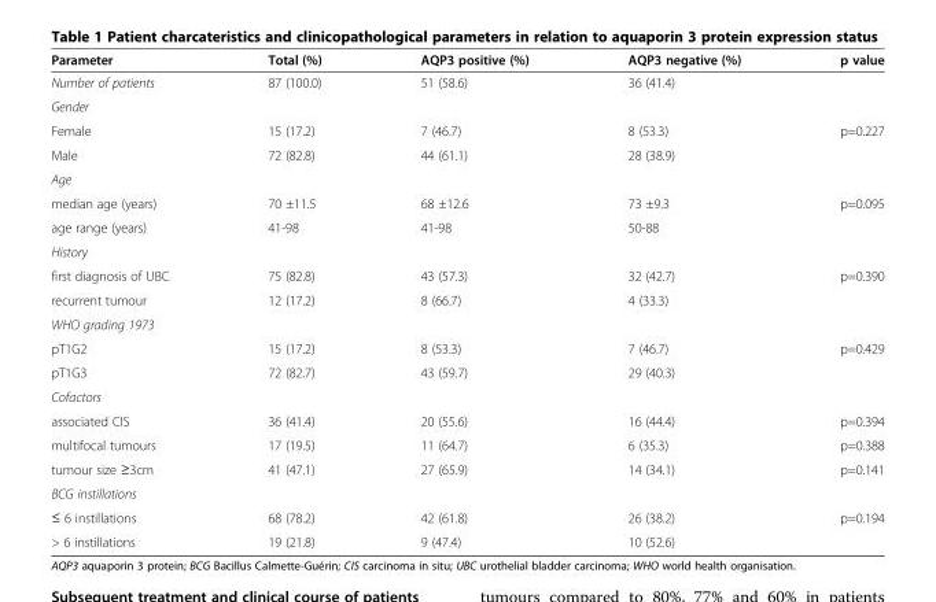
<table><thead><tr><td>Parameter</td><td>Total (%)</td><td>AQP3 positive (%)</td><td>AQP3 negative (%)</td><td>p value</td></tr></thead><tbody><tr><td>Number of patients</td><td>87 (100.0)</td><td>51 (58.6)</td><td>36 (41.4)</td><td></td></tr><tr><td colspan="5">Gender</td></tr><tr><td>Female</td><td>15 (17.2)</td><td>7 (46.7)</td><td>8 (53.3)</td><td>p=0.227</td></tr><tr><td>Male</td><td>72 (82.8)</td><td>44 (61.1)</td><td>28 (38.9)</td><td></td></tr><tr><td colspan="5">Age</td></tr><tr><td>median age (years)</td><td>70 ±11.5</td><td>68 ±12.6</td><td>73 ±9.3</td><td>p=0.095</td></tr><tr><td>age range (years)</td><td>41-98</td><td>41-98</td><td>50-88</td><td></td></tr><tr><td colspan="5">History</td></tr><tr><td>first diagnosis of UBC</td><td>75 (82.8)</td><td>43 (57.3)</td><td>32 (42.7)</td><td>p=0.390</td></tr><tr><td>recurrent tumour</td><td>12 (17.2)</td><td>8 (66.7)</td><td>4 (33.3)</td><td></td></tr><tr><td colspan="5">WHO grading 1973</td></tr><tr><td>pT1G2</td><td>15 (17.2)</td><td>8 (53.3)</td><td>7 (46.7)</td><td>p=0.429</td></tr><tr><td>pT1G3</td><td>72 (82.7)</td><td>43 (59.7)</td><td>29 (40.3)</td><td></td></tr><tr><td colspan="5">Cofactors</td></tr><tr><td>associated CIS</td><td>36 (41.4)</td><td>20 (55.6)</td><td>16 (44.4)</td><td>p=0.394</td></tr><tr><td>multifocal tumours</td><td>17 (19.5)</td><td>11 (64.7)</td><td>6 (35.3)</td><td>p=0.388</td></tr><tr><td>tumour size ≥3cm</td><td>41 (47.1)</td><td>27 (65.9)</td><td>14 (34.1)</td><td>p=0.141</td></tr><tr><td colspan="5">BCG instillations</td></tr><tr><td>≤ 6 instillations</td><td>68 (78.2)</td><td>42 (61.8)</td><td>26 (38.2)</td><td>p=0.194</td></tr><tr><td>&gt; 6 instillations</td><td>19 (21.8)</td><td>9 (47.4)</td><td>10 (52.6)</td><td></td></tr></tbody></table>